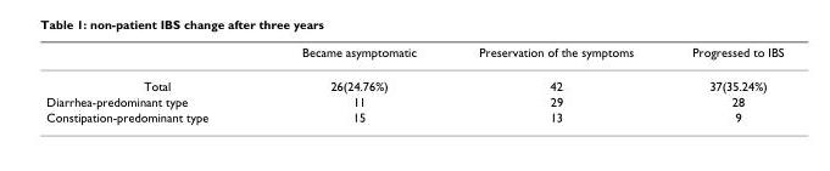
<table><thead><tr><td></td><td>Became asymptomatic</td><td>Preservation of the symptoms</td><td>Progressed to IBS</td></tr></thead><tbody><tr><td>Total</td><td>26(24.76%)</td><td>42</td><td>37(35.24%)</td></tr><tr><td>Diarrhea-predominant type</td><td>11</td><td>29</td><td>28</td></tr><tr><td>Constipation-predominant type</td><td>15</td><td>13</td><td>9</td></tr></tbody></table>